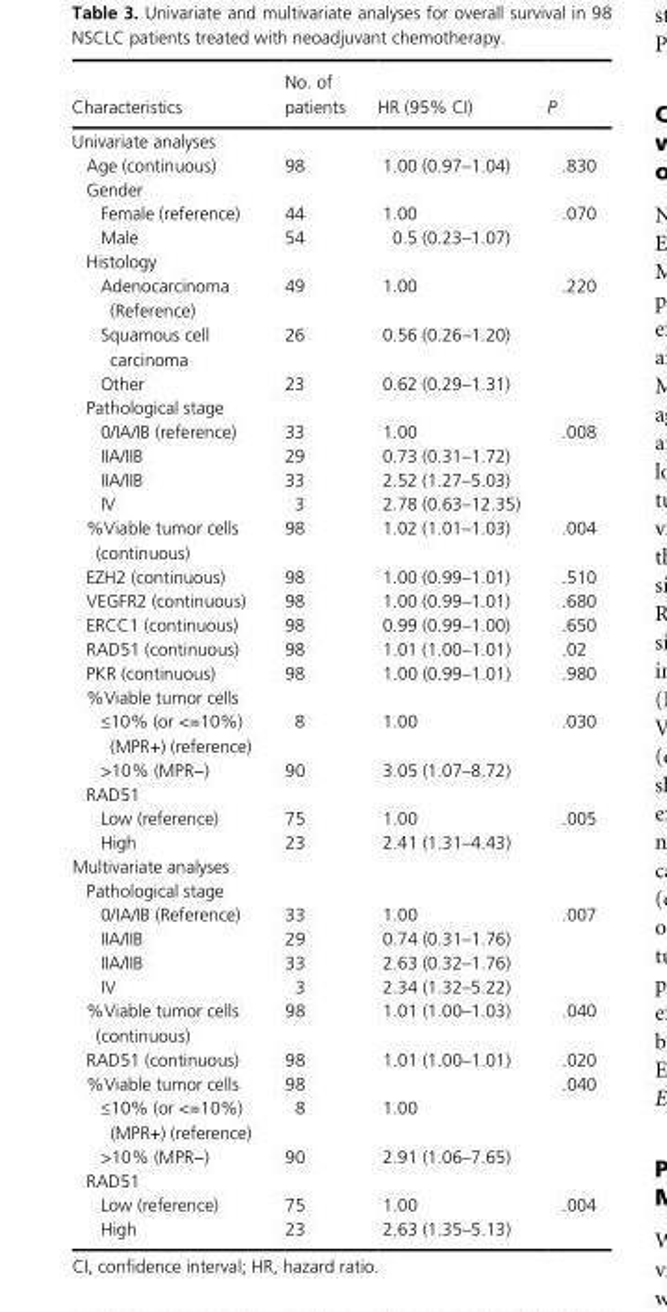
<table><thead><tr><td>Characteristics</td><td>No. of patients</td><td>HR (95% CI)</td><td>P</td></tr></thead><tbody><tr><td colspan="4">Univariate analyses</td></tr><tr><td>Age (continuous)</td><td>98</td><td>1.00 (0.97–1.04)</td><td>.830</td></tr><tr><td colspan="4">Gender</td></tr><tr><td>Female (reference)</td><td>44</td><td>1.00</td><td rowspan="2">.070</td></tr><tr><td>Male</td><td>54</td><td>0.5 (0.23–1.07)</td></tr><tr><td colspan="4">Histology</td></tr><tr><td>Adenocarcinoma (Reference)</td><td>49</td><td>1.00</td><td rowspan="3">.220</td></tr><tr><td>Squamous cell carcinoma</td><td>26</td><td>0.56 (0.26–1.20)</td></tr><tr><td>Other</td><td>23</td><td>0.62 (0.29–1.31)</td></tr><tr><td colspan="4">Pathological stage</td></tr><tr><td>0/IA/IB (reference)</td><td>33</td><td>1.00</td><td rowspan="4">.008</td></tr><tr><td>IIA/IIB</td><td>29</td><td>0.73 (0.31–1.72)</td></tr><tr><td>IIA/IIB</td><td>33</td><td>2.52 (1.27–5.03)</td></tr><tr><td>IV</td><td>3</td><td>2.78 (0.63–12.35)</td></tr><tr><td>%Viable tumor cells (continuous)</td><td>98</td><td>1.02 (1.01–1.03)</td><td>.004</td></tr><tr><td>EZH2 (continuous)</td><td>98</td><td>1.00 (0.99–1.01)</td><td>.510</td></tr><tr><td>VEGFR2 (continuous)</td><td>98</td><td>1.00 (0.99–1.01)</td><td>.680</td></tr><tr><td>ERCC1 (continuous)</td><td>98</td><td>0.99 (0.99–1.00)</td><td>.650</td></tr><tr><td>RAD51 (continuous)</td><td>98</td><td>1.01 (1.00–1.01)</td><td>.02</td></tr><tr><td>PKR (continuous)</td><td>98</td><td>1.00 (0.99–1.01)</td><td>.980</td></tr><tr><td colspan="4">%Viable tumor cells</td></tr><tr><td>≤10% (or &lt;=10%) (MPR+) (reference)</td><td>8</td><td>1.00</td><td rowspan="2">.030</td></tr><tr><td>&gt;10% (MPR−)</td><td>90</td><td>3.05 (1.07–8.72)</td></tr><tr><td colspan="4">RAD51</td></tr><tr><td>Low (reference)</td><td>75</td><td>1.00</td><td rowspan="2">.005</td></tr><tr><td>High</td><td>23</td><td>2.41 (1.31–4.43)</td></tr><tr><td colspan="4">Multivariate analyses</td></tr><tr><td colspan="4">Pathological stage</td></tr><tr><td>0/IA/IB (Reference)</td><td>33</td><td>1.00</td><td rowspan="4">.007</td></tr><tr><td>IIA/IIB</td><td>29</td><td>0.74 (0.31–1.76)</td></tr><tr><td>IIA/IIB</td><td>33</td><td>2.63 (0.32–1.76)</td></tr><tr><td>IV</td><td>3</td><td>2.34 (1.32–5.22)</td></tr><tr><td>%Viable tumor cells (continuous)</td><td>98</td><td>1.01 (1.00–1.03)</td><td>.040</td></tr><tr><td>RAD51 (continuous)</td><td>98</td><td>1.01 (1.00–1.01)</td><td>.020</td></tr><tr><td>%Viable tumor cells</td><td>98</td><td></td><td>.040</td></tr><tr><td>≤10% (or &lt;=10%) (MPR+) (reference)</td><td>8</td><td>1.00</td><td></td></tr><tr><td>&gt;10% (MPR−)</td><td>90</td><td>2.91 (1.06–7.65)</td><td></td></tr><tr><td colspan="4">RAD51</td></tr><tr><td>Low (reference)</td><td>75</td><td>1.00</td><td rowspan="2">.004</td></tr><tr><td>High</td><td>23</td><td>2.63 (1.35–5.13)</td></tr></tbody></table>